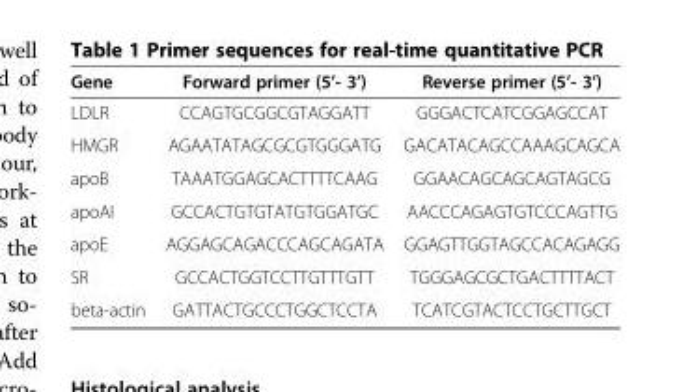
<table><thead><tr><td>Gene</td><td>Forward primer (5’- 3’)</td><td>Reverse primer (5’- 3’)</td></tr></thead><tbody><tr><td>LDLR</td><td>CCAGTGCGGCGTAGGATT</td><td>GGGACTCATCGGAGCCAT</td></tr><tr><td>HMGR</td><td>AGAATATAGCGCGTGGGATG</td><td>GACATACAGCCAAAGCAGCA</td></tr><tr><td>apoB</td><td>TAAATGGAGCACTTTTCAAG</td><td>GGAACAGCAGCAGTAGCG</td></tr><tr><td>apoAI</td><td>GCCACTGTGTATGTGGATGC</td><td>AACCCAGAGTGTCCCAGTTG</td></tr><tr><td>apoE</td><td>AGGAGCAGACCCAGCAGATA</td><td>GGAGTTGGTAGCCACAGAGG</td></tr><tr><td>SR</td><td>GCCACTGGTCCTTGTTTGTT</td><td>TGGGAGCGCTGACTTTTACT</td></tr><tr><td>beta-actin</td><td>GATTACTGCCCTGGCTCCTA</td><td>TCATCGTACTCCTGCTTGCT</td></tr></tbody></table>